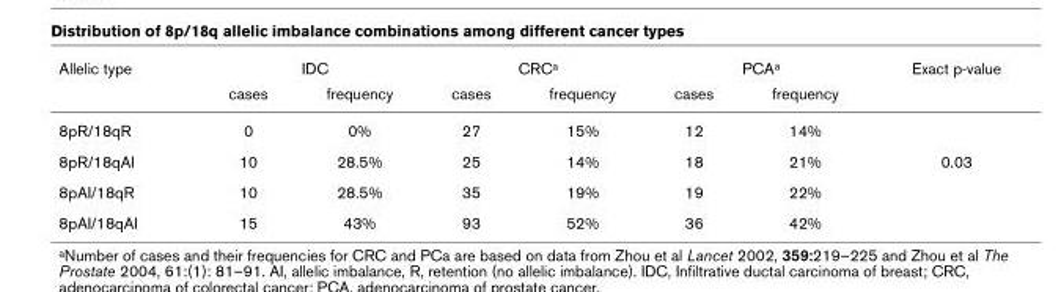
<table><thead><tr><td rowspan="2">Allelic type</td><td colspan="2">IDC</td><td colspan="2">CRCa</td><td colspan="2">PCAa</td><td rowspan="2">Exact p-value</td></tr><tr><td>cases</td><td>frequency</td><td>cases</td><td>frequency</td><td>cases</td><td>frequency</td></tr></thead><tbody><tr><td>8pR/18qR</td><td>0</td><td>0%</td><td>27</td><td>15%</td><td>12</td><td>14%</td><td></td></tr><tr><td>8pR/18qAI</td><td>10</td><td>28.5%</td><td>25</td><td>14%</td><td>18</td><td>21%</td><td>0.03</td></tr><tr><td>8pAI/18qR</td><td>10</td><td>28.5%</td><td>35</td><td>19%</td><td>19</td><td>22%</td><td></td></tr><tr><td>8pAI/18qAI</td><td>15</td><td>43%</td><td>93</td><td>52%</td><td>36</td><td>42%</td><td></td></tr></tbody></table>